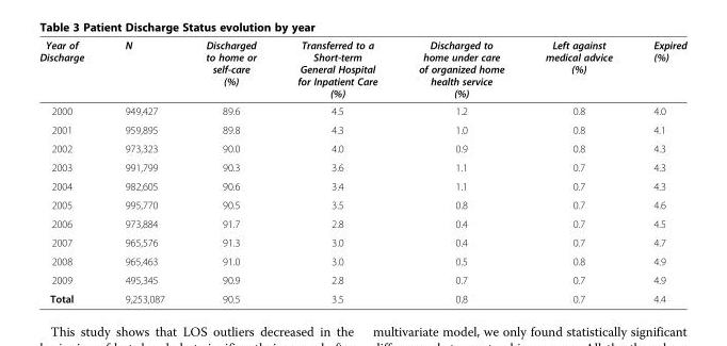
<table><thead><tr><td>Year of Discharge</td><td>N</td><td>Discharged to home or self-care (%)</td><td>Transferred to a Short-term General Hospital for Inpatient Care (%)</td><td>Discharged to home under care of organized home health service (%)</td><td>Left against medical advice (%)</td><td>Expired (%)</td></tr></thead><tbody><tr><td>2000</td><td>949,427</td><td>89.6</td><td>4.5</td><td>1.2</td><td>0.8</td><td>4.0</td></tr><tr><td>2001</td><td>959,895</td><td>89.8</td><td>4.3</td><td>1.0</td><td>0.8</td><td>4.1</td></tr><tr><td>2002</td><td>973,323</td><td>90.0</td><td>4.0</td><td>0.9</td><td>0.8</td><td>4.3</td></tr><tr><td>2003</td><td>991,799</td><td>90.3</td><td>3.6</td><td>1.1</td><td>0.7</td><td>4.3</td></tr><tr><td>2004</td><td>982,605</td><td>90.6</td><td>3.4</td><td>1.1</td><td>0.7</td><td>4.3</td></tr><tr><td>2005</td><td>995,770</td><td>90.5</td><td>3.5</td><td>0.8</td><td>0.7</td><td>4.6</td></tr><tr><td>2006</td><td>973,884</td><td>91.7</td><td>2.8</td><td>0.4</td><td>0.7</td><td>4.5</td></tr><tr><td>2007</td><td>965,576</td><td>91.3</td><td>3.0</td><td>0.4</td><td>0.7</td><td>4.7</td></tr><tr><td>2008</td><td>965,463</td><td>91.0</td><td>3.0</td><td>0.5</td><td>0.8</td><td>4.9</td></tr><tr><td>2009</td><td>495,345</td><td>90.9</td><td>2.8</td><td>0.7</td><td>0.7</td><td>4.9</td></tr><tr><td>Total</td><td>9,253,087</td><td>90.5</td><td>3.5</td><td>0.8</td><td>0.7</td><td>4.4</td></tr></tbody></table>